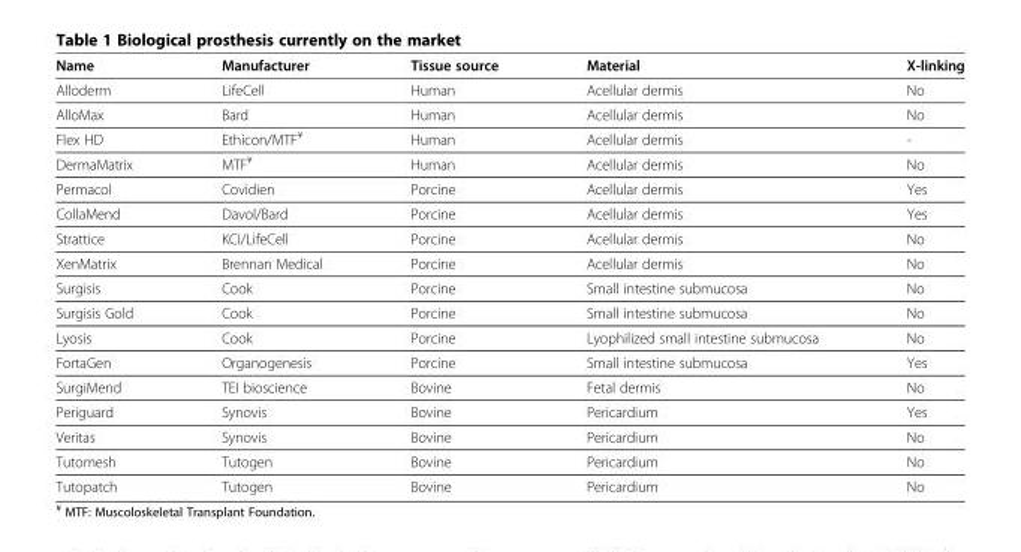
<table><thead><tr><td>Name</td><td>Manufacturer</td><td>Tissue source</td><td>Material</td><td>X-linking</td></tr></thead><tbody><tr><td>Alloderm</td><td>LifeCell</td><td>Human</td><td>Acellular dermis</td><td>No</td></tr><tr><td>AlloMax</td><td>Bard</td><td>Human</td><td>Acellular dermis</td><td>No</td></tr><tr><td>Flex HD</td><td>Ethicon/MTF<sup>¥</sup></td><td>Human</td><td>Acellular dermis</td><td>-</td></tr><tr><td>DermaMatrix</td><td>MTF<sup>¥</sup></td><td>Human</td><td>Acellular dermis</td><td>No</td></tr><tr><td>Permacol</td><td>Covidien</td><td>Porcine</td><td>Acellular dermis</td><td>Yes</td></tr><tr><td>CollaMend</td><td>Davol/Bard</td><td>Porcine</td><td>Acellular dermis</td><td>Yes</td></tr><tr><td>Strattice</td><td>KCI/LifeCell</td><td>Porcine</td><td>Acellular dermis</td><td>No</td></tr><tr><td>XenMatrix</td><td>Brennan Medical</td><td>Porcine</td><td>Acellular dermis</td><td>No</td></tr><tr><td>Surgisis</td><td>Cook</td><td>Porcine</td><td>Small intestine submucosa</td><td>No</td></tr><tr><td>Surgisis Gold</td><td>Cook</td><td>Porcine</td><td>Small intestine submucosa</td><td>No</td></tr><tr><td>Lyosis</td><td>Cook</td><td>Porcine</td><td>Lyophilized small intestine submucosa</td><td>No</td></tr><tr><td>FortaGen</td><td>Organogenesis</td><td>Porcine</td><td>Small intestine submucosa</td><td>Yes</td></tr><tr><td>SurgiMend</td><td>TEI bioscience</td><td>Bovine</td><td>Fetal dermis</td><td>No</td></tr><tr><td>Periguard</td><td>Synovis</td><td>Bovine</td><td>Pericardium</td><td>Yes</td></tr><tr><td>Veritas</td><td>Synovis</td><td>Bovine</td><td>Pericardium</td><td>No</td></tr><tr><td>Tutomesh</td><td>Tutogen</td><td>Bovine</td><td>Pericardium</td><td>No</td></tr><tr><td>Tutopatch</td><td>Tutogen</td><td>Bovine</td><td>Pericardium</td><td>No</td></tr></tbody></table>